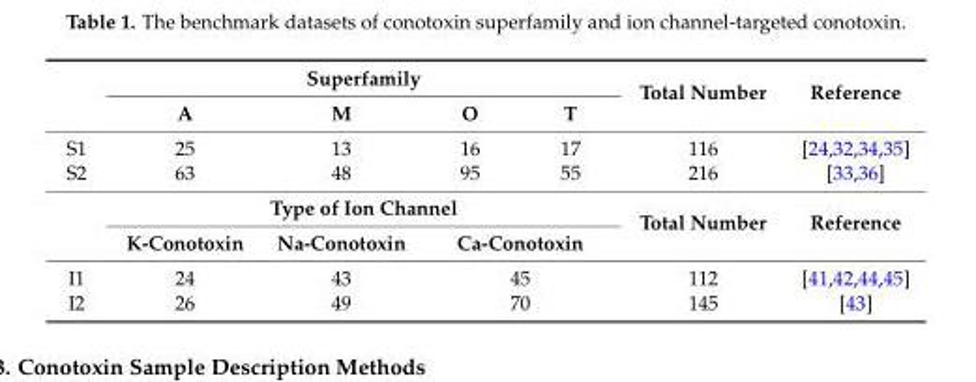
<table><thead><tr><td rowspan="2"></td><td colspan="4">Superfamily</td><td rowspan="2">Total Number</td><td rowspan="2">Reference</td></tr><tr><td>A</td><td>M</td><td>O</td><td>T</td></tr></thead><tbody><tr><td>S1</td><td>25</td><td>13</td><td>16</td><td>17</td><td>116</td><td>[24,32,34,35]</td></tr><tr><td rowspan="3">S2</td><td>63</td><td>48</td><td>95</td><td>55</td><td>216</td><td>[33,36]</td></tr><tr><td colspan="4">Type of Ion Channel</td><td rowspan="2">Total Number</td><td rowspan="2">Reference</td></tr><tr><td>K-Conotoxin</td><td>Na-Conotoxin</td><td colspan="2">Ca-Conotoxin</td></tr><tr><td>I1</td><td>24</td><td>43</td><td colspan="2">45</td><td>112</td><td>[41,42,44,45]</td></tr><tr><td>I2</td><td>26</td><td>49</td><td colspan="2">70</td><td>145</td><td>[43]</td></tr></tbody></table>